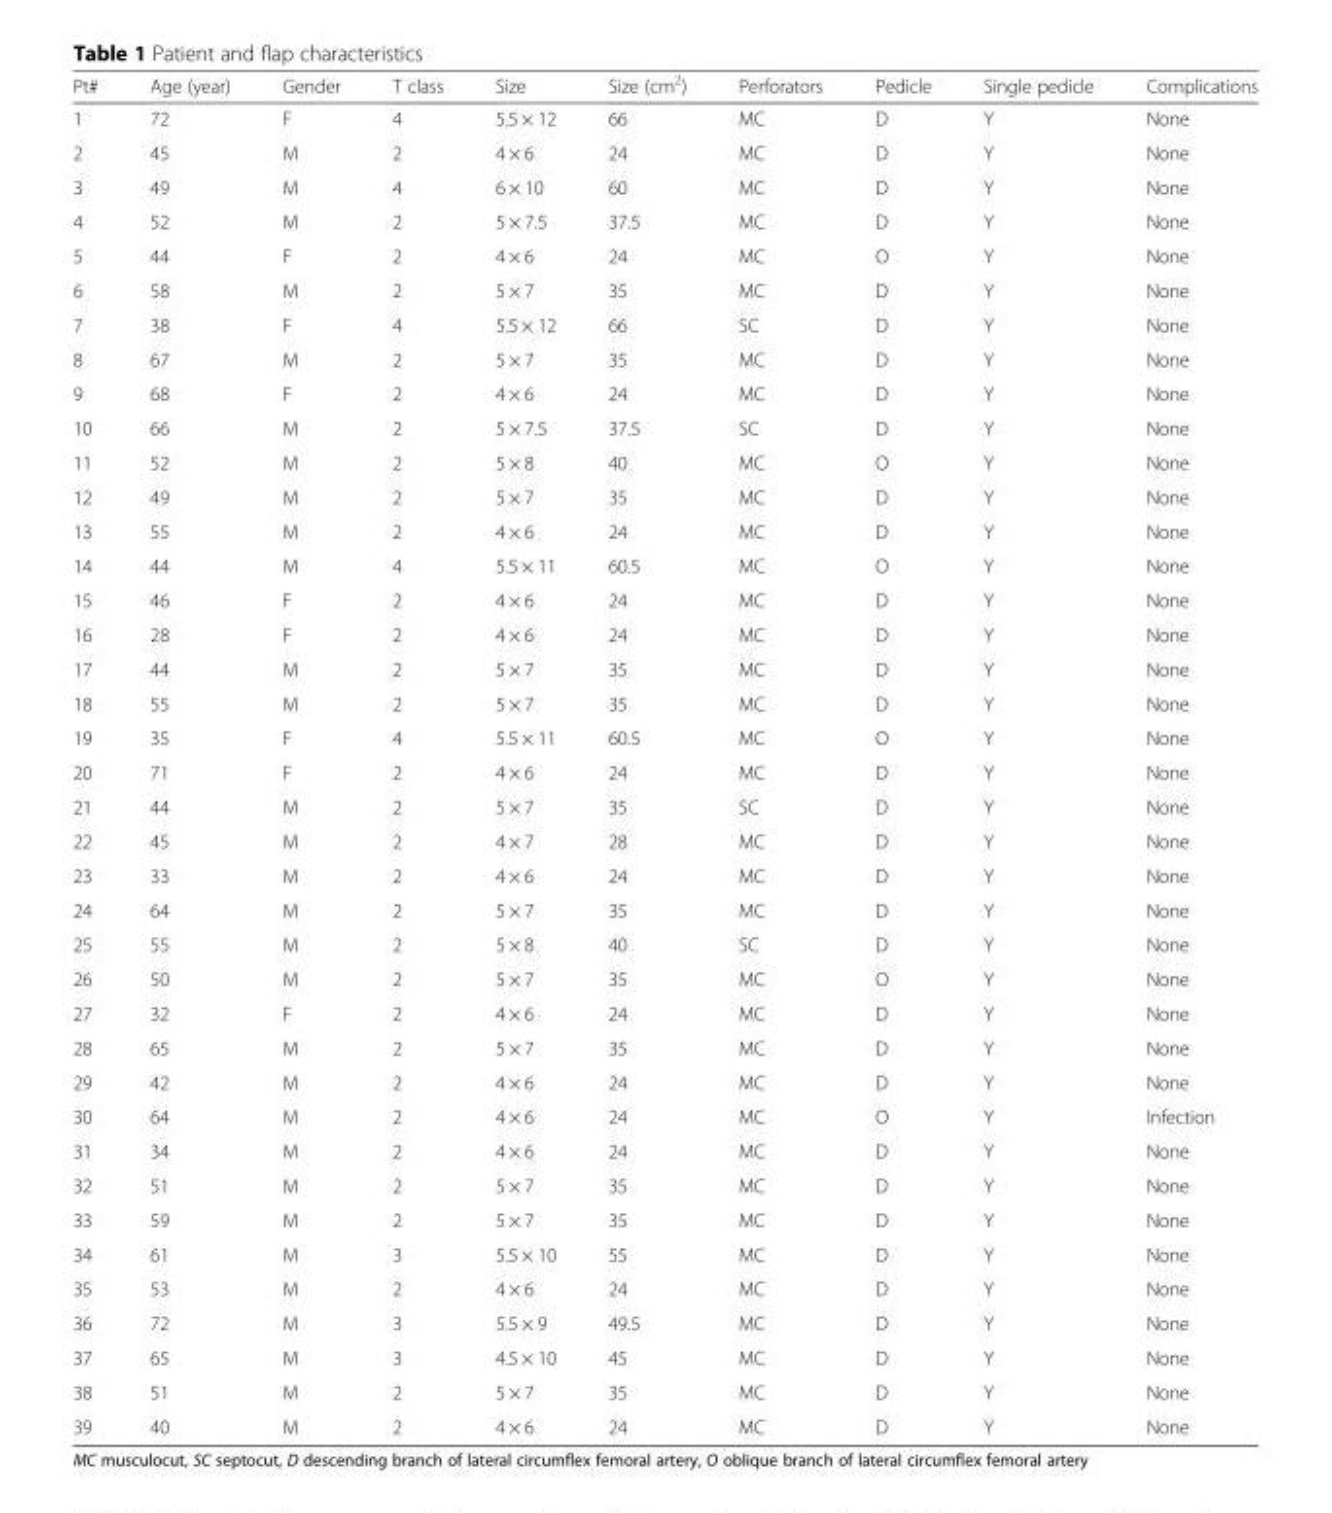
<table><thead><tr><td>Pt#</td><td>Age (year)</td><td>Gender</td><td>T class</td><td>Size</td><td>Size (cm<sup>2</sup>)</td><td>Perforators</td><td>Pedicle</td><td>Single pedicle</td><td>Complications</td></tr></thead><tbody><tr><td>1</td><td>72</td><td>F</td><td>4</td><td>5.5 × 12</td><td>66</td><td>MC</td><td>D</td><td>Y</td><td>None</td></tr><tr><td>2</td><td>45</td><td>M</td><td>2</td><td>4 × 6</td><td>24</td><td>MC</td><td>D</td><td>Y</td><td>None</td></tr><tr><td>3</td><td>49</td><td>M</td><td>4</td><td>6 × 10</td><td>60</td><td>MC</td><td>D</td><td>Y</td><td>None</td></tr><tr><td>4</td><td>52</td><td>M</td><td>2</td><td>5 × 7.5</td><td>37.5</td><td>MC</td><td>D</td><td>Y</td><td>None</td></tr><tr><td>5</td><td>44</td><td>F</td><td>2</td><td>4 × 6</td><td>24</td><td>MC</td><td>O</td><td>Y</td><td>None</td></tr><tr><td>6</td><td>58</td><td>M</td><td>2</td><td>5 × 7</td><td>35</td><td>MC</td><td>D</td><td>Y</td><td>None</td></tr><tr><td>7</td><td>38</td><td>F</td><td>4</td><td>5.5 × 12</td><td>66</td><td>SC</td><td>D</td><td>Y</td><td>None</td></tr><tr><td>8</td><td>67</td><td>M</td><td>2</td><td>5 × 7</td><td>35</td><td>MC</td><td>D</td><td>Y</td><td>None</td></tr><tr><td>9</td><td>68</td><td>F</td><td>2</td><td>4 × 6</td><td>24</td><td>MC</td><td>D</td><td>Y</td><td>None</td></tr><tr><td>10</td><td>66</td><td>M</td><td>2</td><td>5 × 7.5</td><td>37.5</td><td>SC</td><td>D</td><td>Y</td><td>None</td></tr><tr><td>11</td><td>52</td><td>M</td><td>2</td><td>5 × 8</td><td>40</td><td>MC</td><td>O</td><td>Y</td><td>None</td></tr><tr><td>12</td><td>49</td><td>M</td><td>2</td><td>5 × 7</td><td>35</td><td>MC</td><td>D</td><td>Y</td><td>None</td></tr><tr><td>13</td><td>55</td><td>M</td><td>2</td><td>4 × 6</td><td>24</td><td>MC</td><td>D</td><td>Y</td><td>None</td></tr><tr><td>14</td><td>44</td><td>M</td><td>4</td><td>5.5 × 11</td><td>60.5</td><td>MC</td><td>O</td><td>Y</td><td>None</td></tr><tr><td>15</td><td>46</td><td>F</td><td>2</td><td>4 × 6</td><td>24</td><td>MC</td><td>D</td><td>Y</td><td>None</td></tr><tr><td>16</td><td>28</td><td>F</td><td>2</td><td>4 × 6</td><td>24</td><td>MC</td><td>D</td><td>Y</td><td>None</td></tr><tr><td>17</td><td>44</td><td>M</td><td>2</td><td>5 × 7</td><td>35</td><td>MC</td><td>D</td><td>Y</td><td>None</td></tr><tr><td>18</td><td>55</td><td>M</td><td>2</td><td>5 × 7</td><td>35</td><td>MC</td><td>D</td><td>Y</td><td>None</td></tr><tr><td>19</td><td>35</td><td>F</td><td>4</td><td>5.5 × 11</td><td>60.5</td><td>MC</td><td>O</td><td>Y</td><td>None</td></tr><tr><td>20</td><td>71</td><td>F</td><td>2</td><td>4 × 6</td><td>24</td><td>MC</td><td>D</td><td>Y</td><td>None</td></tr><tr><td>21</td><td>44</td><td>M</td><td>2</td><td>5 × 7</td><td>35</td><td>SC</td><td>D</td><td>Y</td><td>None</td></tr><tr><td>22</td><td>45</td><td>M</td><td>2</td><td>4 × 7</td><td>28</td><td>MC</td><td>D</td><td>Y</td><td>None</td></tr><tr><td>23</td><td>33</td><td>M</td><td>2</td><td>4 × 6</td><td>24</td><td>MC</td><td>D</td><td>Y</td><td>None</td></tr><tr><td>24</td><td>64</td><td>M</td><td>2</td><td>5 × 7</td><td>35</td><td>MC</td><td>D</td><td>Y</td><td>None</td></tr><tr><td>25</td><td>55</td><td>M</td><td>2</td><td>5 × 8</td><td>40</td><td>SC</td><td>D</td><td>Y</td><td>None</td></tr><tr><td>26</td><td>50</td><td>M</td><td>2</td><td>5 × 7</td><td>35</td><td>MC</td><td>O</td><td>Y</td><td>None</td></tr><tr><td>27</td><td>32</td><td>F</td><td>2</td><td>4 × 6</td><td>24</td><td>MC</td><td>D</td><td>Y</td><td>None</td></tr><tr><td>28</td><td>65</td><td>M</td><td>2</td><td>5 × 7</td><td>35</td><td>MC</td><td>D</td><td>Y</td><td>None</td></tr><tr><td>29</td><td>42</td><td>M</td><td>2</td><td>4 × 6</td><td>24</td><td>MC</td><td>D</td><td>Y</td><td>None</td></tr><tr><td>30</td><td>64</td><td>M</td><td>2</td><td>4 × 6</td><td>24</td><td>MC</td><td>O</td><td>Y</td><td>Infection</td></tr><tr><td>31</td><td>34</td><td>M</td><td>2</td><td>4 × 6</td><td>24</td><td>MC</td><td>D</td><td>Y</td><td>None</td></tr><tr><td>32</td><td>51</td><td>M</td><td>2</td><td>5 × 7</td><td>35</td><td>MC</td><td>D</td><td>Y</td><td>None</td></tr><tr><td>33</td><td>59</td><td>M</td><td>2</td><td>5 × 7</td><td>35</td><td>MC</td><td>D</td><td>Y</td><td>None</td></tr><tr><td>34</td><td>61</td><td>M</td><td>3</td><td>5.5 × 10</td><td>55</td><td>MC</td><td>D</td><td>Y</td><td>None</td></tr><tr><td>35</td><td>53</td><td>M</td><td>2</td><td>4 × 6</td><td>24</td><td>MC</td><td>D</td><td>Y</td><td>None</td></tr><tr><td>36</td><td>72</td><td>M</td><td>3</td><td>5.5 × 9</td><td>49.5</td><td>MC</td><td>D</td><td>Y</td><td>None</td></tr><tr><td>37</td><td>65</td><td>M</td><td>3</td><td>4.5 × 10</td><td>45</td><td>MC</td><td>D</td><td>Y</td><td>None</td></tr><tr><td>38</td><td>51</td><td>M</td><td>2</td><td>5 × 7</td><td>35</td><td>MC</td><td>D</td><td>Y</td><td>None</td></tr><tr><td>39</td><td>40</td><td>M</td><td>2</td><td>4 × 6</td><td>24</td><td>MC</td><td>D</td><td>Y</td><td>None</td></tr></tbody></table>